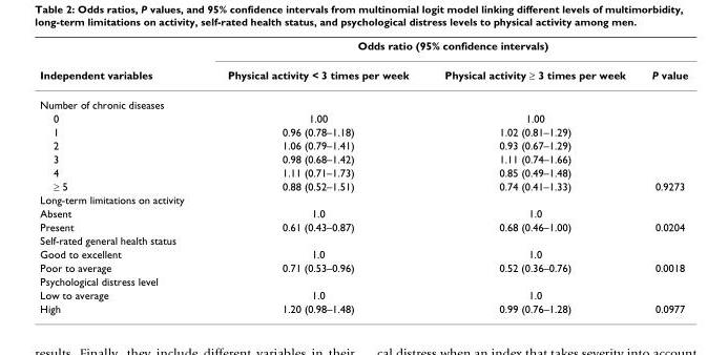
<table><thead><tr><td rowspan="2">Independent variables</td><td colspan="3">Odds ratio (95% confidence intervals)</td></tr><tr><td>Physical activity &lt; 3 times per week</td><td>Physical activity ≥ 3 times per week</td><td>P value</td></tr></thead><tbody><tr><td colspan="4">Number of chronic diseases</td></tr><tr><td>0</td><td>1.00</td><td>1.00</td><td></td></tr><tr><td>1</td><td>0.96 (0.78–1.18)</td><td>1.02 (0.81–1.29)</td><td></td></tr><tr><td>2</td><td>1.06 (0.79–1.41)</td><td>0.93 (0.67–1.29)</td><td></td></tr><tr><td>3</td><td>0.98 (0.68–1.42)</td><td>1.11 (0.74–1.66)</td><td></td></tr><tr><td>4</td><td>1.11 (0.71–1.73)</td><td>0.85 (0.49–1.48)</td><td></td></tr><tr><td>≥ 5</td><td>0.88 (0.52–1.51)</td><td>0.74 (0.41–1.33)</td><td>0.9273</td></tr><tr><td colspan="4">Long-term limitations on activity</td></tr><tr><td>Absent</td><td>1.0</td><td>1.0</td><td></td></tr><tr><td>Present</td><td>0.61 (0.43–0.87)</td><td>0.68 (0.46–1.00)</td><td>0.0204</td></tr><tr><td colspan="4">Self-rated general health status</td></tr><tr><td>Good to excellent</td><td>1.0</td><td>1.0</td><td></td></tr><tr><td>Poor to average</td><td>0.71 (0.53–0.96)</td><td>0.52 (0.36–0.76)</td><td>0.0018</td></tr><tr><td colspan="4">Psychological distress level</td></tr><tr><td>Low to average</td><td>1.0</td><td>1.0</td><td></td></tr><tr><td>High</td><td>1.20 (0.98–1.48)</td><td>0.99 (0.76–1.28)</td><td>0.0977</td></tr></tbody></table>